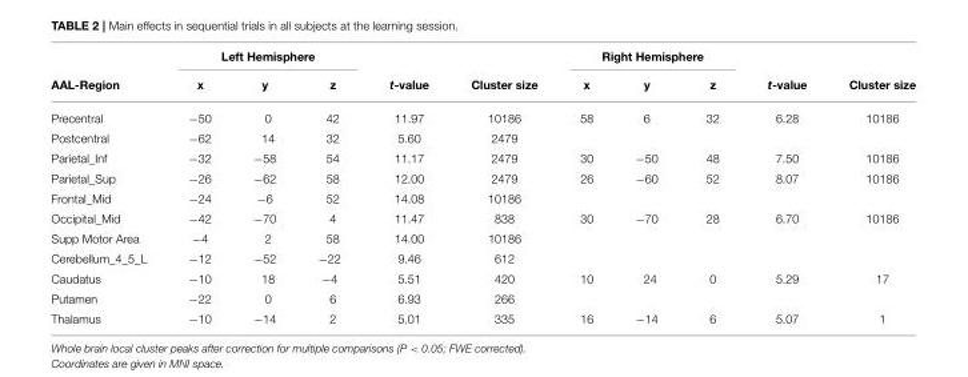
<table><thead><tr><td rowspan="2">AAL-Region</td><td colspan="3">Left Hemisphere</td><td rowspan="2">t-value</td><td rowspan="2">Cluster size</td><td colspan="3">Right Hemisphere</td><td rowspan="2">t-value</td><td rowspan="2">Cluster size</td></tr><tr><td>x</td><td>y</td><td>z</td><td>x</td><td>y</td><td>z</td></tr></thead><tbody><tr><td>Precentral</td><td>−50</td><td>0</td><td>42</td><td>11.97</td><td>10186</td><td>58</td><td>6</td><td>32</td><td>6.28</td><td>10186</td></tr><tr><td>Postcentral</td><td>−62</td><td>14</td><td>32</td><td>5.60</td><td>2479</td><td></td><td></td><td></td><td></td><td></td></tr><tr><td>Parietal_Inf</td><td>−32</td><td>−58</td><td>54</td><td>11.17</td><td>2479</td><td>30</td><td>−50</td><td>48</td><td>7.50</td><td>10186</td></tr><tr><td>Parietal_Sup</td><td>−26</td><td>−62</td><td>58</td><td>12.00</td><td>2479</td><td>26</td><td>−60</td><td>52</td><td>8.07</td><td>10186</td></tr><tr><td>Frontal_Mid</td><td>−24</td><td>−6</td><td>52</td><td>14.08</td><td>10186</td><td></td><td></td><td></td><td></td><td></td></tr><tr><td>Occipital_Mid</td><td>−42</td><td>−70</td><td>4</td><td>11.47</td><td>838</td><td>30</td><td>−70</td><td>28</td><td>6.70</td><td>10186</td></tr><tr><td>Supp Motor Area</td><td>−4</td><td>2</td><td>58</td><td>14.00</td><td>10186</td><td></td><td></td><td></td><td></td><td></td></tr><tr><td>Cerebellum_4_5_L</td><td>−12</td><td>−52</td><td>−22</td><td>9.46</td><td>612</td><td></td><td></td><td></td><td></td><td></td></tr><tr><td>Caudatus</td><td>−10</td><td>18</td><td>−4</td><td>5.51</td><td>420</td><td>10</td><td>24</td><td>0</td><td>5.29</td><td>17</td></tr><tr><td>Putamen</td><td>−22</td><td>0</td><td>6</td><td>6.93</td><td>266</td><td></td><td></td><td></td><td></td><td></td></tr><tr><td>Thalamus</td><td>−10</td><td>−14</td><td>2</td><td>5.01</td><td>335</td><td>16</td><td>−14</td><td>6</td><td>5.07</td><td>1</td></tr></tbody></table>